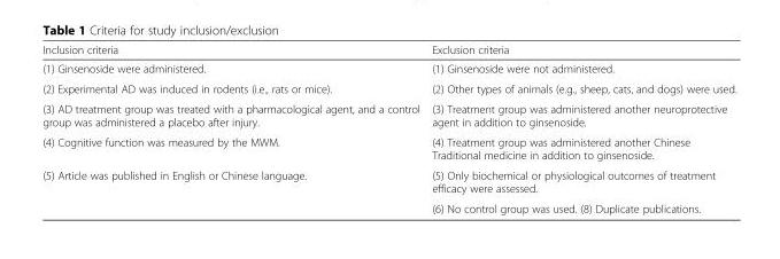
<table><thead><tr><td>Inclusion criteria</td><td>Exclusion criteria</td></tr></thead><tbody><tr><td>(1) Ginsenoside were administered.</td><td>(1) Ginsenoside were not administered.</td></tr><tr><td>(2) Experimental AD was induced in rodents (i.e., rats or mice).</td><td>(2) Other types of animals (e.g., sheep, cats, and dogs) were used.</td></tr><tr><td>(3) AD treatment group was treated with a pharmacological agent, and a control group was administered a placebo after injury.</td><td>(3) Treatment group was administered another neuroprotective agent in addition to ginsenoside.</td></tr><tr><td>(4) Cognitive function was measured by the MWM.</td><td>(4) Treatment group was administered another Chinese Traditional medicine in addition to ginsenoside.</td></tr><tr><td rowspan="2">(5) Article was published in English or Chinese language.</td><td>(5) Only biochemical or physiological outcomes of treatment efficacy were assessed.</td></tr><tr><td>(6) No control group was used. (8) Duplicate publications.</td></tr></tbody></table>